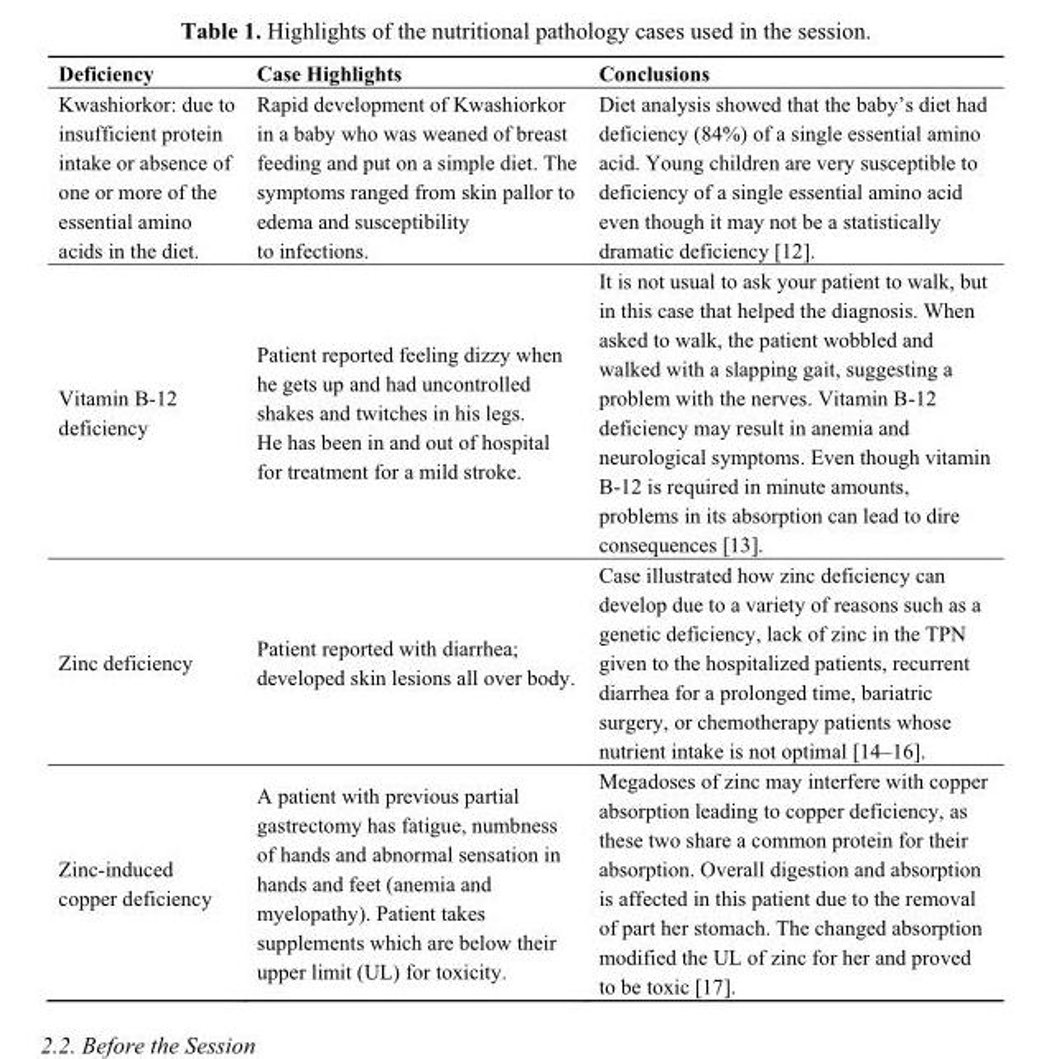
<table><thead><tr><td>Deficiency</td><td>Case Highlights</td><td>Conclusions</td></tr></thead><tbody><tr><td>Kwashiorkor: due to insufficient protein intake or absence of one or more of the essential amino acids in the diet.</td><td>Rapid development of Kwashiorkor in a baby who was weaned of breast feeding and put on a simple diet. The symptoms ranged from skin pallor to edema and susceptibility to infections.</td><td>Diet analysis showed that the baby’s diet had deficiency (84%) of a single essential amino acid. Young children are very susceptible to deficiency of a single essential amino acid even though it may not be a statistically dramatic deficiency [12].</td></tr><tr><td>Vitamin B-12 deficiency</td><td>Patient reported feeling dizzy when he gets up and had uncontrolled shakes and twitches in his legs. He has been in and out of hospital for treatment for a mild stroke.</td><td>It is not usual to ask your patient to walk, but in this case that helped the diagnosis. When asked to walk, the patient wobbled and walked with a slapping gait, suggesting a problem with the nerves. Vitamin B-12 deficiency may result in anemia and neurological symptoms. Even though vitamin B-12 is required in minute amounts, problems in its absorption can lead to dire consequences [13].</td></tr><tr><td>Zinc deficiency</td><td>Patient reported with diarrhea; developed skin lesions all over body.</td><td>Case illustrated how zinc deficiency can develop due to a variety of reasons such as a genetic deficiency, lack of zinc in the TPN given to the hospitalized patients, recurrent diarrhea for a prolonged time, bariatric surgery, or chemotherapy patients whose nutrient intake is not optimal [14–16].</td></tr><tr><td>Zinc-induced copper deficiency</td><td>A patient with previous partial gastrectomy has fatigue, numbness of hands and abnormal sensation in hands and feet (anemia and myelopathy). Patient takes supplements which are below their upper limit (UL) for toxicity.</td><td>Megadoses of zinc may interfere with copper absorption leading to copper deficiency, as these two share a common protein for their absorption. Overall digestion and absorption is affected in this patient due to the removal of part her stomach. The changed absorption modified the UL of zinc for her and proved to be toxic [17].</td></tr></tbody></table>